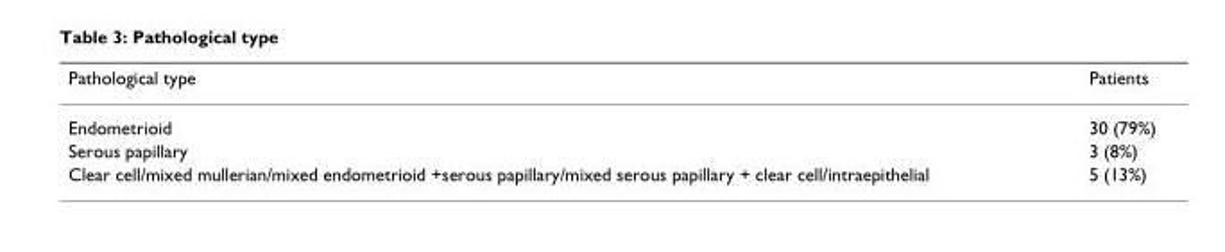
<table><thead><tr><td>Pathological type</td><td>Patients</td></tr></thead><tbody><tr><td>Endometrioid</td><td>30 (79%)</td></tr><tr><td>Serous papillary</td><td>3 (8%)</td></tr><tr><td>Clear cell/mixed mullerian/mixed endometrioid +serous papillary/mixed serous papillary + clear cell/intraepithelial</td><td>5 (13%)</td></tr></tbody></table>